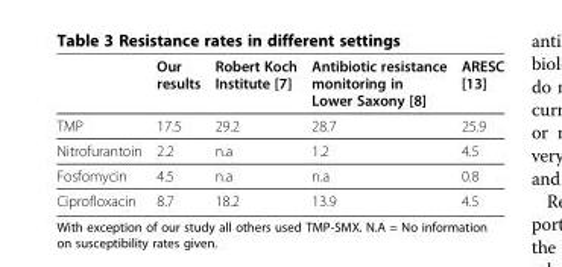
<table><thead><tr><td></td><td>Our results</td><td>Robert Koch Institute [7]</td><td>Antibiotic resistance monitoring in Lower Saxony [8]</td><td>ARESC [13]</td></tr></thead><tbody><tr><td>TMP</td><td>17.5</td><td>29.2</td><td>28.7</td><td>25.9</td></tr><tr><td>Nitrofurantoin</td><td>2.2</td><td>n.a</td><td>1.2</td><td>4.5</td></tr><tr><td>Fosfomycin</td><td>4.5</td><td>n.a</td><td>n.a</td><td>0.8</td></tr><tr><td>Ciprofloxacin</td><td>8.7</td><td>18.2</td><td>13.9</td><td>4.5</td></tr></tbody></table>